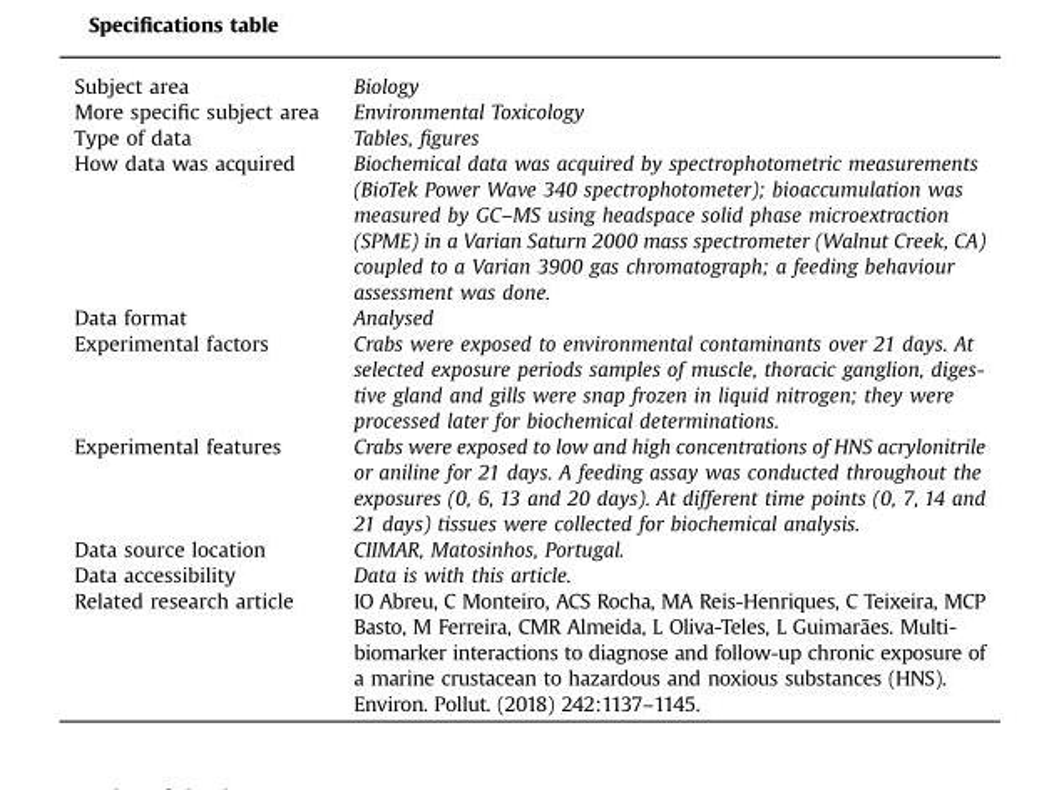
<table><tbody><tr><td>Subject area</td><td>Biology</td></tr><tr><td>More specific subject area</td><td>Environmental Toxicology</td></tr><tr><td>Type of data</td><td>Tables, figures</td></tr><tr><td>How data was acquired</td><td>Biochemical data was acquired by spectrophotometric measurements (BioTek Power Wave 340 spectrophotometer); bioaccumulation was measured by GC–MS using headspace solid phase microextraction (SPME) in a Varian Saturn 2000 mass spectrometer (Walnut Creek, CA) coupled to a Varian 3900 gas chromatograph; a feeding behaviour assessment was done.</td></tr><tr><td>Data format</td><td>Analysed</td></tr><tr><td>Experimental factors</td><td>Crabs were exposed to environmental contaminants over 21 days. At selected exposure periods samples of muscle, thoracic ganglion, diges- tive gland and gills were snap frozen in liquid nitrogen; they were processed later for biochemical determinations.</td></tr><tr><td>Experimental features</td><td>Crabs were exposed to low and high concentrations of HNS acrylonitrile or aniline for 21 days. A feeding assay was conducted throughout the exposures (0, 6, 13 and 20 days). At different time points (0, 7, 14 and 21 days) tissues were collected for biochemical analysis.</td></tr><tr><td>Data source location</td><td>CIIMAR, Matosinhos, Portugal.</td></tr><tr><td>Data accessibility</td><td>Data is with this article.</td></tr><tr><td>Related research article</td><td>IO Abreu, C Monteiro, ACS Rocha, MA Reis-Henriques, C Teixeira, MCP Basto, M Ferreira, CMR Almeida, L Oliva-Teles, L Guimarães. Multi- biomarker interactions to diagnose and follow-up chronic exposure of a marine crustacean to hazardous and noxious substances (HNS). Environ. Pollut. (2018) 242:1137–1145.</td></tr></tbody></table>